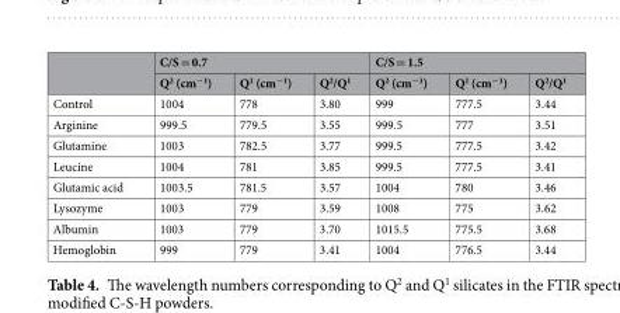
<table><thead><tr><td rowspan="2"></td><td colspan="3">C/S = 0.7</td><td colspan="3">C/S = 1.5</td></tr><tr><td>Q<sup>2</sup> (cm<sup>−1</sup>)</td><td>Q<sup>1</sup> (cm<sup>−1</sup>)</td><td>Q<sup>2</sup>/Q<sup>1</sup></td><td>Q<sup>2</sup> (cm<sup>−1</sup>)</td><td>Q<sup>1</sup> (cm<sup>−1</sup>)</td><td>Q<sup>2</sup>/Q<sup>1</sup></td></tr></thead><tbody><tr><td>Control</td><td>1004</td><td>778</td><td>3.80</td><td>999</td><td>777.5</td><td>3.44</td></tr><tr><td>Arginine</td><td>999.5</td><td>779.5</td><td>3.55</td><td>999.5</td><td>777</td><td>3.51</td></tr><tr><td>Glutamine</td><td>1003</td><td>782.5</td><td>3.77</td><td>999.5</td><td>777.5</td><td>3.42</td></tr><tr><td>Leucine</td><td>1004</td><td>781</td><td>3.85</td><td>999.5</td><td>777.5</td><td>3.41</td></tr><tr><td>Glutamic acid</td><td>1003.5</td><td>781.5</td><td>3.57</td><td>1004</td><td>780</td><td>3.46</td></tr><tr><td>Lysozyme</td><td>1003</td><td>779</td><td>3.59</td><td>1008</td><td>775</td><td>3.62</td></tr><tr><td>Albumin</td><td>1003</td><td>779</td><td>3.70</td><td>1015.5</td><td>775.5</td><td>3.68</td></tr><tr><td>Hemoglobin</td><td>999</td><td>779</td><td>3.41</td><td>1004</td><td>776.5</td><td>3.44</td></tr></tbody></table>